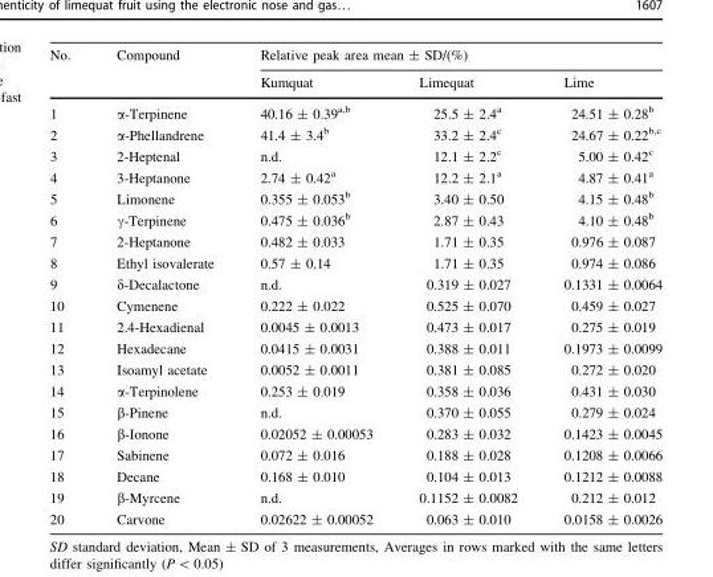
<table><thead><tr><td rowspan="2">No.</td><td rowspan="2">Compound</td><td colspan="3">Relative peak area mean ± SD/(%)</td></tr><tr><td>Kumquat</td><td>Limequat</td><td>Lime</td></tr></thead><tbody><tr><td>1</td><td>α-Terpinene</td><td>40.16 ± 0.39<sup>a,b</sup></td><td>25.5 ± 2.4<sup>a</sup></td><td>24.51 ± 0.28<sup>b</sup></td></tr><tr><td>2</td><td>α-Phellandrene</td><td>41.4 ± 3.4<sup>b</sup></td><td>33.2 ± 2.4<sup>c</sup></td><td>24.67 ± 0.22<sup>b,c</sup></td></tr><tr><td>3</td><td>2-Heptenal</td><td>n.d.</td><td>12.1 ± 2.2<sup>c</sup></td><td>5.00 ± 0.42<sup>c</sup></td></tr><tr><td>4</td><td>3-Heptanone</td><td>2.74 ± 0.42<sup>a</sup></td><td>12.2 ± 2.1<sup>a</sup></td><td>4.87 ± 0.41<sup>a</sup></td></tr><tr><td>5</td><td>Limonene</td><td>0.355 ± 0.053<sup>b</sup></td><td>3.40 ± 0.50</td><td>4.15 ± 0.48<sup>b</sup></td></tr><tr><td>6</td><td>γ-Terpinene</td><td>0.475 ± 0.036<sup>b</sup></td><td>2.87 ± 0.43</td><td>4.10 ± 0.48<sup>b</sup></td></tr><tr><td>7</td><td>2-Heptanone</td><td>0.482 ± 0.033</td><td>1.71 ± 0.35</td><td>0.976 ± 0.087</td></tr><tr><td>8</td><td>Ethyl isovalerate</td><td>0.57 ± 0.14</td><td>1.71 ± 0.35</td><td>0.974 ± 0.086</td></tr><tr><td>9</td><td>δ-Decalactone</td><td>n.d.</td><td>0.319 ± 0.027</td><td>0.1331 ± 0.0064</td></tr><tr><td>10</td><td>Cymenene</td><td>0.222 ± 0.022</td><td>0.525 ± 0.070</td><td>0.459 ± 0.027</td></tr><tr><td>11</td><td>2.4-Hexadienal</td><td>0.0045 ± 0.0013</td><td>0.473 ± 0.017</td><td>0.275 ± 0.019</td></tr><tr><td>12</td><td>Hexadecane</td><td>0.0415 ± 0.0031</td><td>0.388 ± 0.011</td><td>0.1973 ± 0.0099</td></tr><tr><td>13</td><td>Isoamyl acetate</td><td>0.0052 ± 0.0011</td><td>0.381 ± 0.085</td><td>0.272 ± 0.020</td></tr><tr><td>14</td><td>α-Terpinolene</td><td>0.253 ± 0.019</td><td>0.358 ± 0.036</td><td>0.431 ± 0.030</td></tr><tr><td>15</td><td>β-Pinene</td><td>n.d.</td><td>0.370 ± 0.055</td><td>0.279 ± 0.024</td></tr><tr><td>16</td><td>β-Ionone</td><td>0.02052 ± 0.00053</td><td>0.283 ± 0.032</td><td>0.1423 ± 0.0045</td></tr><tr><td>17</td><td>Sabinene</td><td>0.072 ± 0.016</td><td>0.188 ± 0.028</td><td>0.1208 ± 0.0066</td></tr><tr><td>18</td><td>Decane</td><td>0.168 ± 0.010</td><td>0.104 ± 0.013</td><td>0.1212 ± 0.0088</td></tr><tr><td>19</td><td>β-Myrcene</td><td>n.d.</td><td>0.1152 ± 0.0082</td><td>0.212 ± 0.012</td></tr><tr><td>20</td><td>Carvone</td><td>0.02622 ± 0.00052</td><td>0.063 ± 0.010</td><td>0.0158 ± 0.0026</td></tr></tbody></table>